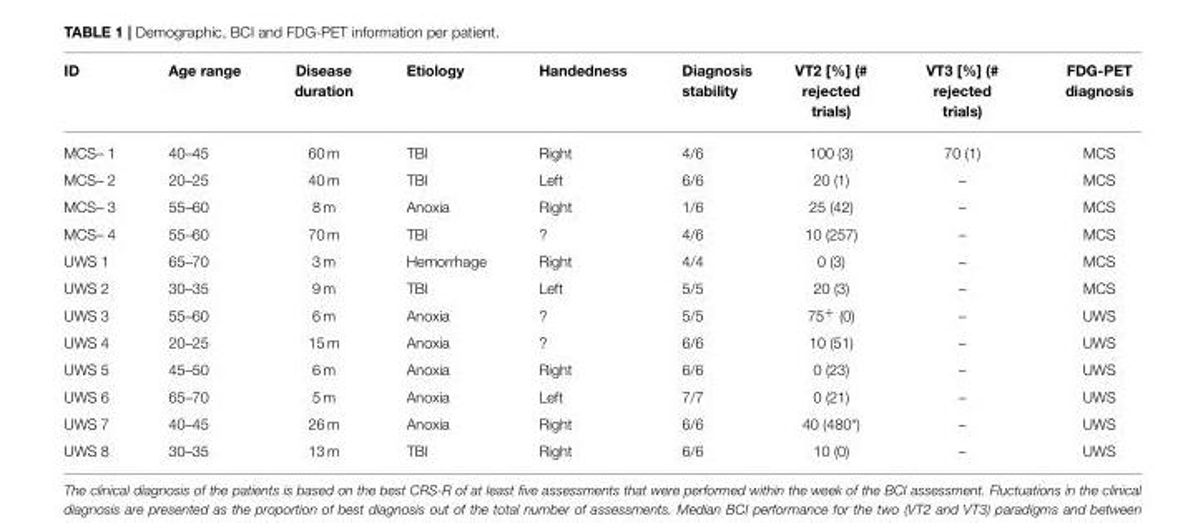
<table><thead><tr><td>ID</td><td>Age range</td><td>Disease duration</td><td>Etiology</td><td>Handedness</td><td>Diagnosis stability</td><td>VT2 [%] (# rejected trials)</td><td>VT3 [%] (# rejected trials)</td><td>FDG-PET diagnosis</td></tr></thead><tbody><tr><td>MCS– 1</td><td>40–45</td><td>60 m</td><td>TBI</td><td>Right</td><td>4/6</td><td>100 (3)</td><td>70 (1)</td><td>MCS</td></tr><tr><td>MCS– 2</td><td>20–25</td><td>40 m</td><td>TBI</td><td>Left</td><td>6/6</td><td>20 (1)</td><td>–</td><td>MCS</td></tr><tr><td>MCS– 3</td><td>55–60</td><td>8 m</td><td>Anoxia</td><td>Right</td><td>1/6</td><td>25 (42)</td><td>–</td><td>MCS</td></tr><tr><td>MCS– 4</td><td>55–60</td><td>70 m</td><td>TBI</td><td>?</td><td>4/6</td><td>10 (257)</td><td>–</td><td>MCS</td></tr><tr><td>UWS 1</td><td>65–70</td><td>3 m</td><td>Hemorrhage</td><td>Right</td><td>4/4</td><td>0 (3)</td><td>–</td><td>MCS</td></tr><tr><td>UWS 2</td><td>30–35</td><td>9 m</td><td>TBI</td><td>Left</td><td>5/5</td><td>20 (3)</td><td>–</td><td>MCS</td></tr><tr><td>UWS 3</td><td>55–60</td><td>6 m</td><td>Anoxia</td><td>?</td><td>5/5</td><td>75<sup>+</sup> (0)</td><td>–</td><td>UWS</td></tr><tr><td>UWS 4</td><td>20–25</td><td>15 m</td><td>Anoxia</td><td>?</td><td>6/6</td><td>10 (51)</td><td>–</td><td>UWS</td></tr><tr><td>UWS 5</td><td>45–50</td><td>6 m</td><td>Anoxia</td><td>Right</td><td>6/6</td><td>0 (23)</td><td>–</td><td>UWS</td></tr><tr><td>UWS 6</td><td>65–70</td><td>5 m</td><td>Anoxia</td><td>Left</td><td>7/7</td><td>0 (21)</td><td>–</td><td>UWS</td></tr><tr><td>UWS 7</td><td>40–45</td><td>26 m</td><td>Anoxia</td><td>Right</td><td>6/6</td><td>40 (480*)</td><td>–</td><td>UWS</td></tr><tr><td>UWS 8</td><td>30–35</td><td>13 m</td><td>TBI</td><td>Right</td><td>6/6</td><td>10 (0)</td><td>–</td><td>UWS</td></tr></tbody></table>